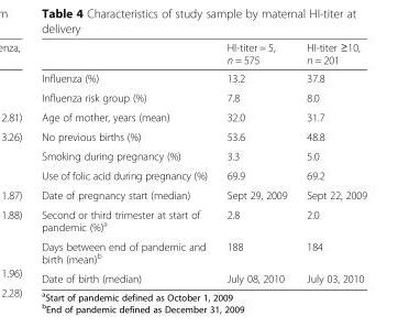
<table><thead><tr><td></td><td>HI-titer = 5, n = 575</td><td>HI-titer ≥10, n = 201</td></tr></thead><tbody><tr><td>Influenza (%)</td><td>13.2</td><td>37.8</td></tr><tr><td>Influenza risk group (%)</td><td>7.8</td><td>8.0</td></tr><tr><td>Age of mother, years (mean)</td><td>32.0</td><td>31.7</td></tr><tr><td>No previous births (%)</td><td>53.6</td><td>48.8</td></tr><tr><td>Smoking during pregnancy (%)</td><td>3.3</td><td>5.0</td></tr><tr><td>Use of folic acid during pregnancy (%)</td><td>69.9</td><td>69.2</td></tr><tr><td>Date of pregnancy start (median)</td><td>Sept 29, 2009</td><td>Sept 22, 2009</td></tr><tr><td>Second or third trimester at start of pandemic (%)<sup>a</sup></td><td>2.8</td><td>2.0</td></tr><tr><td>Days between end of pandemic and birth (mean)<sup>b</sup></td><td>188</td><td>184</td></tr><tr><td>Date of birth (median)</td><td>July 08, 2010</td><td>July 03, 2010</td></tr></tbody></table>